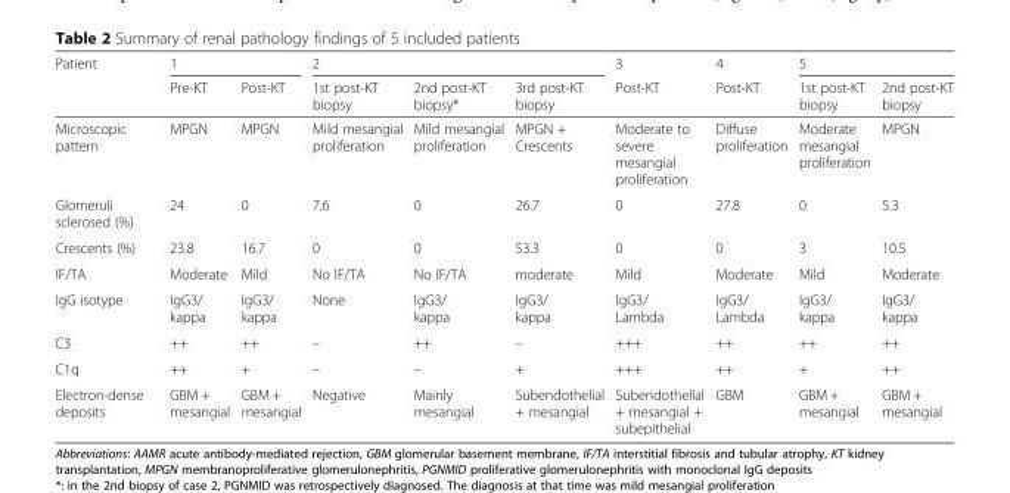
<table><thead><tr><td rowspan="2">Patient</td><td colspan="2">1</td><td colspan="3">2</td><td rowspan="2">3 Post-KT</td><td rowspan="2">4 Post-KT</td><td colspan="2">5</td></tr><tr><td>Pre-KT</td><td>Post-KT</td><td>1st post-KT biopsy</td><td>2nd post-KT biopsy*</td><td>3rd post-KT biopsy</td><td>1st post-KT biopsy</td><td>2nd post-KT biopsy</td></tr></thead><tbody><tr><td>Microscopic pattern</td><td>MPGN</td><td>MPGN</td><td>Mild mesangial proliferation</td><td>Mild mesangial proliferation</td><td>MPGN + Crescents</td><td>Moderate to severe mesangial proliferation</td><td>Diffuse proliferation</td><td>Moderate mesangial proliferation</td><td>MPGN</td></tr><tr><td>Glomeruli sclerosed (%)</td><td>24</td><td>0</td><td>7.6</td><td>0</td><td>26.7</td><td>0</td><td>27.8</td><td>0</td><td>5.3</td></tr><tr><td>Crescents (%)</td><td>23.8</td><td>16.7</td><td>0</td><td>0</td><td>53.3</td><td>0</td><td>0</td><td>3</td><td>10.5</td></tr><tr><td>IF/TA</td><td>Moderate</td><td>Mild</td><td>No IF/TA</td><td>No IF/TA</td><td>moderate</td><td>Mild</td><td>Moderate</td><td>Mild</td><td>Moderate</td></tr><tr><td>IgG isotype</td><td>IgG3/ kappa</td><td>IgG3/ kappa</td><td>None</td><td>IgG3/ kappa</td><td>IgG3/ kappa</td><td>IgG3/ Lambda</td><td>IgG3/ Lambda</td><td>IgG3/ kappa</td><td>IgG3/ kappa</td></tr><tr><td>C3</td><td>++</td><td>++</td><td>–</td><td>++</td><td>–</td><td>+++</td><td>++</td><td>++</td><td>++</td></tr><tr><td>C1q</td><td>++</td><td>+</td><td>–</td><td>–</td><td>+</td><td>+++</td><td>++</td><td>+</td><td>++</td></tr><tr><td>Electron-dense deposits</td><td>GBM + mesangial</td><td>GBM + mesangial</td><td>Negative</td><td>Mainly mesangial</td><td>Subendothelial + mesangial</td><td>Subendothelial + mesangial + subepithelial</td><td>GBM</td><td>GBM + mesangial</td><td>GBM + mesangial</td></tr></tbody></table>